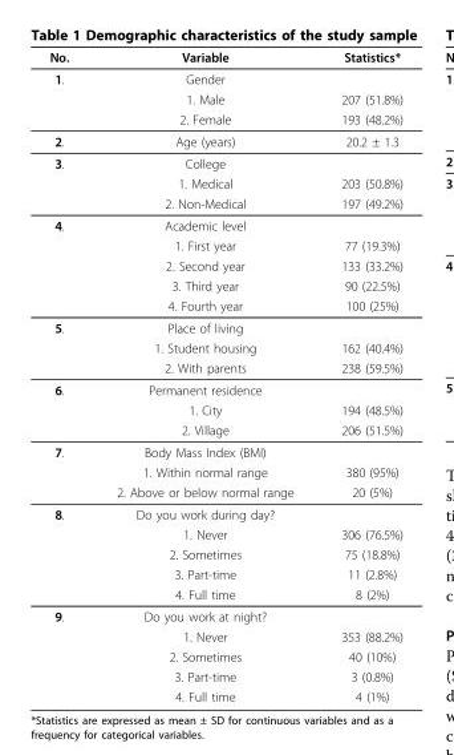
<table><thead><tr><td>No.</td><td>Variable</td><td>Statistics*</td></tr></thead><tbody><tr><td rowspan="3">1.</td><td>Gender</td><td></td></tr><tr><td>1. Male</td><td>207 (51.8%)</td></tr><tr><td>2. Female</td><td>193 (48.2%)</td></tr><tr><td>2.</td><td>Age (years)</td><td>20.2 ± 1.3</td></tr><tr><td rowspan="3">3.</td><td>College</td><td></td></tr><tr><td>1. Medical</td><td>203 (50.8%)</td></tr><tr><td>2. Non-Medical</td><td>197 (49.2%)</td></tr><tr><td rowspan="5">4.</td><td>Academic level</td><td></td></tr><tr><td>1. First year</td><td>77 (19.3%)</td></tr><tr><td>2. Second year</td><td>133 (33.2%)</td></tr><tr><td>3. Third year</td><td>90 (22.5%)</td></tr><tr><td>4. Fourth year</td><td>100 (25%)</td></tr><tr><td rowspan="3">5.</td><td>Place of living</td><td></td></tr><tr><td>1. Student housing</td><td>162 (40.4%)</td></tr><tr><td>2. With parents</td><td>238 (59.5%)</td></tr><tr><td rowspan="3">6.</td><td>Permanent residence</td><td></td></tr><tr><td>1. City</td><td>194 (48.5%)</td></tr><tr><td>2. Village</td><td>206 (51.5%)</td></tr><tr><td rowspan="3">7.</td><td>Body Mass Index (BMI)</td><td></td></tr><tr><td>1. Within normal range</td><td>380 (95%)</td></tr><tr><td>2. Above or below normal range</td><td>20 (5%)</td></tr><tr><td rowspan="5">8.</td><td>Do you work during day?</td><td></td></tr><tr><td>1. Never</td><td>306 (76.5%)</td></tr><tr><td>2. Sometimes</td><td>75 (18.8%)</td></tr><tr><td>3. Part-time</td><td>11 (2.8%)</td></tr><tr><td>4. Full time</td><td>8 (2%)</td></tr><tr><td rowspan="5">9.</td><td>Do you work at night?</td><td></td></tr><tr><td>1. Never</td><td>353 (88.2%)</td></tr><tr><td>2. Sometimes</td><td>40 (10%)</td></tr><tr><td>3. Part-time</td><td>3 (0.8%)</td></tr><tr><td>4. Full time</td><td>4 (1%)</td></tr></tbody></table>